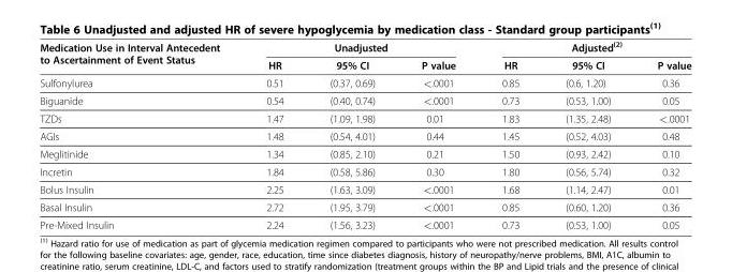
<table><thead><tr><td rowspan="2">Medication Use in Interval Antecedent to Ascertainment of Event Status</td><td colspan="3">Unadjusted</td><td colspan="3">Adjusted<sup>(2)</sup></td></tr><tr><td>HR</td><td>95% CI</td><td>P value</td><td>HR</td><td>95% CI</td><td>P value</td></tr></thead><tbody><tr><td>Sulfonylurea</td><td>0.51</td><td>(0.37, 0.69)</td><td>&lt;.0001</td><td>0.85</td><td>(0.6, 1.20)</td><td>0.36</td></tr><tr><td>Biguanide</td><td>0.54</td><td>(0.40, 0.74)</td><td>&lt;.0001</td><td>0.73</td><td>(0.53, 1.00)</td><td>0.05</td></tr><tr><td>TZDs</td><td>1.47</td><td>(1.09, 1.98)</td><td>0.01</td><td>1.83</td><td>(1.35, 2.48)</td><td>&lt;.0001</td></tr><tr><td>AGIs</td><td>1.48</td><td>(0.54, 4.01)</td><td>0.44</td><td>1.45</td><td>(0.52, 4.03)</td><td>0.48</td></tr><tr><td>Meglitinide</td><td>1.34</td><td>(0.85, 2.10)</td><td>0.21</td><td>1.50</td><td>(0.93, 2.42)</td><td>0.10</td></tr><tr><td>Incretin</td><td>1.84</td><td>(0.58, 5.86)</td><td>0.30</td><td>1.80</td><td>(0.56, 5.74)</td><td>0.32</td></tr><tr><td>Bolus Insulin</td><td>2.25</td><td>(1.63, 3.09)</td><td>&lt;.0001</td><td>1.68</td><td>(1.14, 2.47)</td><td>0.01</td></tr><tr><td>Basal Insulin</td><td>2.72</td><td>(1.95, 3.79)</td><td>&lt;.0001</td><td>0.85</td><td>(0.60, 1.20)</td><td>0.36</td></tr><tr><td>Pre-Mixed Insulin</td><td>2.24</td><td>(1.56, 3.23)</td><td>&lt;.0001</td><td>0.73</td><td>(0.53, 1.00)</td><td>0.05</td></tr></tbody></table>